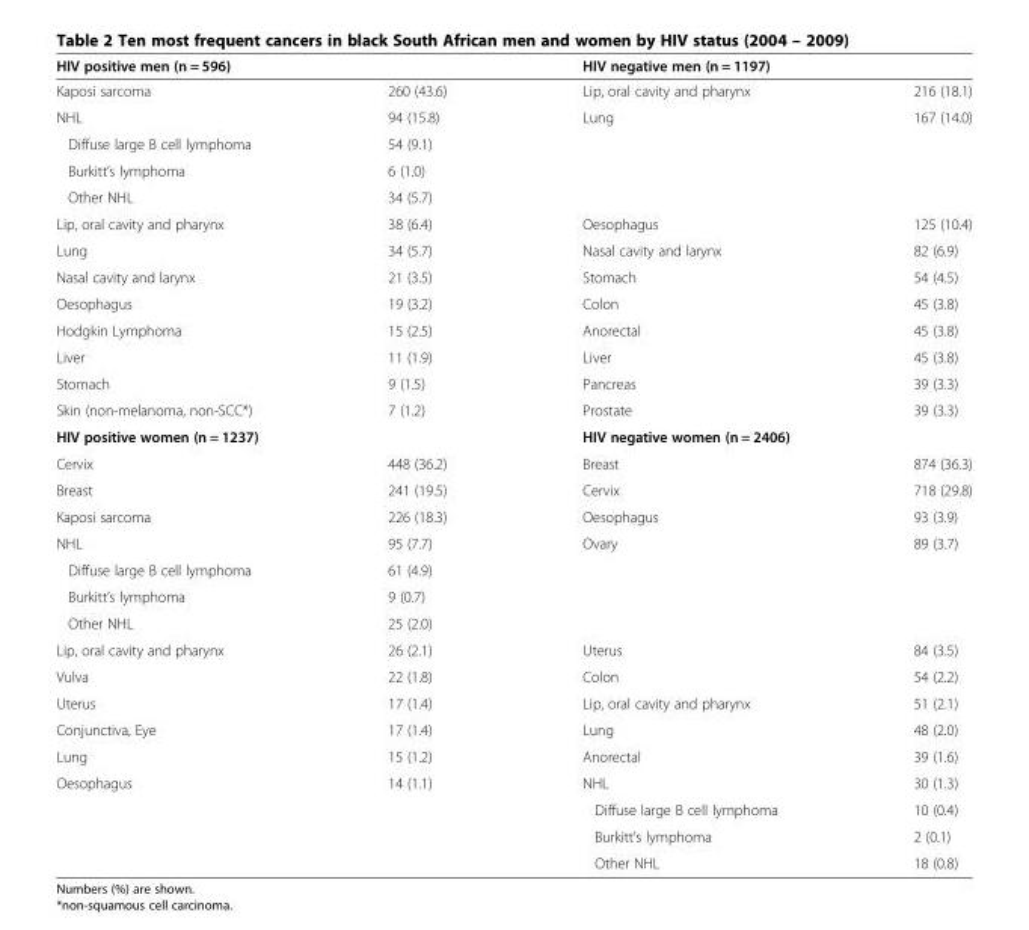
<table><thead><tr><td colspan="2">HIV positive men (n = 596)</td><td colspan="2">HIV negative men (n = 1197)</td></tr><tr><td>Kaposi sarcoma</td><td>260 (43.6)</td><td>Lip, oral cavity and pharynx</td><td>216 (18.1)</td></tr></thead><tbody><tr><td>NHL</td><td>94 (15.8)</td><td>Lung</td><td>167 (14.0)</td></tr><tr><td>Diffuse large B cell lymphoma</td><td>54 (9.1)</td><td rowspan="3"></td><td rowspan="3"></td></tr><tr><td>Burkitt’s lymphoma</td><td>6 (1.0)</td></tr><tr><td>Other NHL</td><td>34 (5.7)</td></tr><tr><td>Lip, oral cavity and pharynx</td><td>38 (6.4)</td><td>Oesophagus</td><td>125 (10.4)</td></tr><tr><td>Lung</td><td>34 (5.7)</td><td>Nasal cavity and larynx</td><td>82 (6.9)</td></tr><tr><td>Nasal cavity and larynx</td><td>21 (3.5)</td><td>Stomach</td><td>54 (4.5)</td></tr><tr><td>Oesophagus</td><td>19 (3.2)</td><td>Colon</td><td>45 (3.8)</td></tr><tr><td>Hodgkin Lymphoma</td><td>15 (2.5)</td><td>Anorectal</td><td>45 (3.8)</td></tr><tr><td>Liver</td><td>11 (1.9)</td><td>Liver</td><td>45 (3.8)</td></tr><tr><td>Stomach</td><td>9 (1.5)</td><td>Pancreas</td><td>39 (3.3)</td></tr><tr><td>Skin (non-melanoma, non-SCC*)</td><td>7 (1.2)</td><td>Prostate</td><td>39 (3.3)</td></tr><tr><td colspan="2">HIV positive women (n = 1237)</td><td colspan="2">HIV negative women (n = 2406)</td></tr><tr><td>Cervix</td><td>448 (36.2)</td><td>Breast</td><td>874 (36.3)</td></tr><tr><td>Breast</td><td>241 (19.5)</td><td>Cervix</td><td>718 (29.8)</td></tr><tr><td>Kaposi sarcoma</td><td>226 (18.3)</td><td>Oesophagus</td><td>93 (3.9)</td></tr><tr><td>NHL</td><td>95 (7.7)</td><td>Ovary</td><td>89 (3.7)</td></tr><tr><td>Diffuse large B cell lymphoma</td><td>61 (4.9)</td><td rowspan="3"></td><td rowspan="3"></td></tr><tr><td>Burkitt’s lymphoma</td><td>9 (0.7)</td></tr><tr><td>Other NHL</td><td>25 (2.0)</td></tr><tr><td>Lip, oral cavity and pharynx</td><td>26 (2.1)</td><td>Uterus</td><td>84 (3.5)</td></tr><tr><td>Vulva</td><td>22 (1.8)</td><td>Colon</td><td>54 (2.2)</td></tr><tr><td>Uterus</td><td>17 (1.4)</td><td>Lip, oral cavity and pharynx</td><td>51 (2.1)</td></tr><tr><td>Conjunctiva, Eye</td><td>17 (1.4)</td><td>Lung</td><td>48 (2.0)</td></tr><tr><td>Lung</td><td>15 (1.2)</td><td>Anorectal</td><td>39 (1.6)</td></tr><tr><td rowspan="4">Oesophagus</td><td>14 (1.1)</td><td>NHL</td><td>30 (1.3)</td></tr><tr><td rowspan="3"></td><td>Diffuse large B cell lymphoma</td><td>10 (0.4)</td></tr><tr><td>Burkitt’s lymphoma</td><td>2 (0.1)</td></tr><tr><td>Other NHL</td><td>18 (0.8)</td></tr></tbody></table>